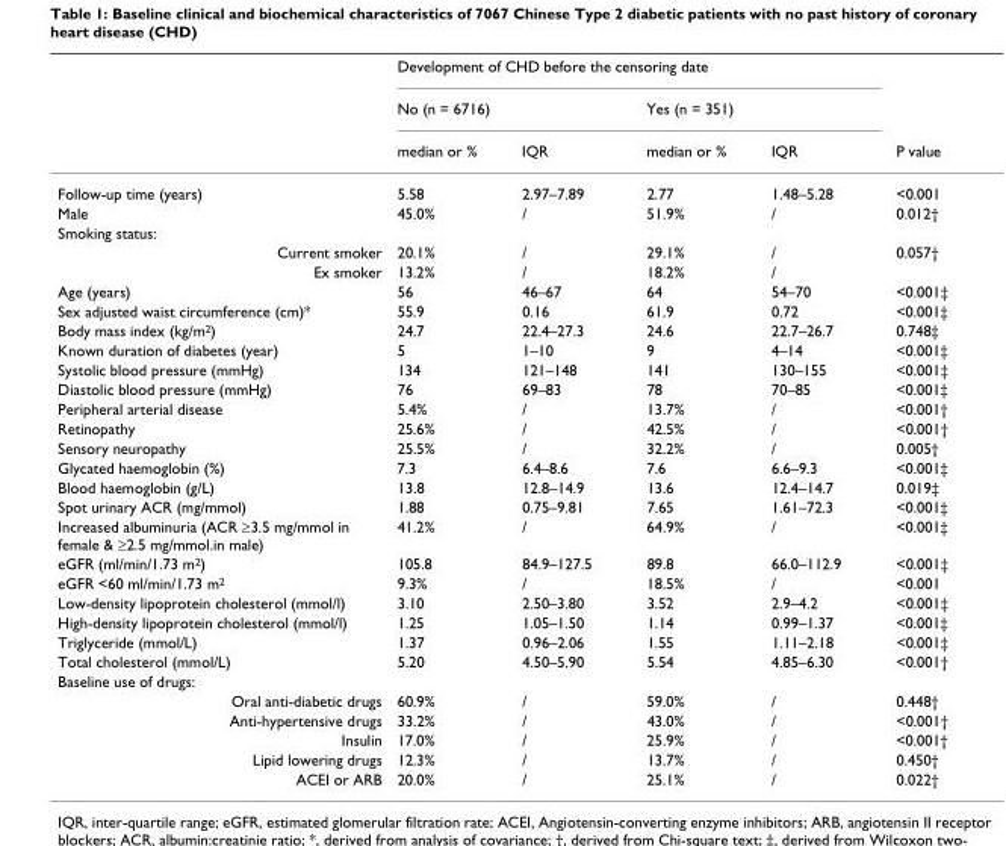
<table><thead><tr><td rowspan="3"></td><td colspan="4">Development of CHD before the censoring date</td><td rowspan="3">P value</td></tr><tr><td colspan="2">No (n = 6716)</td><td colspan="2">Yes (n = 351)</td></tr><tr><td>median or %</td><td>IQR</td><td>median or %</td><td>IQR</td></tr></thead><tbody><tr><td>Follow-up time (years)</td><td>5.58</td><td>2.97–7.89</td><td>2.77</td><td>1.48–5.28</td><td>&lt;0.001</td></tr><tr><td>Male</td><td>45.0%</td><td>/</td><td>51.9%</td><td>/</td><td>0.012†</td></tr><tr><td colspan="6">Smoking status:</td></tr><tr><td>Current smoker</td><td>20.1%</td><td>/</td><td>29.1%</td><td>/</td><td>0.057†</td></tr><tr><td>Ex smoker</td><td>13.2%</td><td>/</td><td>18.2%</td><td>/</td><td></td></tr><tr><td>Age (years)</td><td>56</td><td>46–67</td><td>64</td><td>54–70</td><td>&lt;0.001‡</td></tr><tr><td>Sex adjusted waist circumference (cm)*</td><td>55.9</td><td>0.16</td><td>61.9</td><td>0.72</td><td>&lt;0.001‡</td></tr><tr><td>Body mass index (kg/m<sup>2</sup>)</td><td>24.7</td><td>22.4–27.3</td><td>24.6</td><td>22.7–26.7</td><td>0.748‡</td></tr><tr><td>Known duration of diabetes (year)</td><td>5</td><td>1–10</td><td>9</td><td>4–14</td><td>&lt;0.001‡</td></tr><tr><td>Systolic blood pressure (mmHg)</td><td>134</td><td>121–148</td><td>141</td><td>130–155</td><td>&lt;0.001‡</td></tr><tr><td>Diastolic blood pressure (mmHg)</td><td>76</td><td>69–83</td><td>78</td><td>70–85</td><td>&lt;0.001‡</td></tr><tr><td>Peripheral arterial disease</td><td>5.4%</td><td>/</td><td>13.7%</td><td>/</td><td>&lt;0.001†</td></tr><tr><td>Retinopathy</td><td>25.6%</td><td>/</td><td>42.5%</td><td>/</td><td>&lt;0.001†</td></tr><tr><td>Sensory neuropathy</td><td>25.5%</td><td>/</td><td>32.2%</td><td>/</td><td>0.005†</td></tr><tr><td>Glycated haemoglobin (%)</td><td>7.3</td><td>6.4–8.6</td><td>7.6</td><td>6.6–9.3</td><td>&lt;0.001‡</td></tr><tr><td>Blood haemoglobin (g/L)</td><td>13.8</td><td>12.8–14.9</td><td>13.6</td><td>12.4–14.7</td><td>0.019‡</td></tr><tr><td>Spot urinary ACR (mg/mmol)</td><td>1.88</td><td>0.75–9.81</td><td>7.65</td><td>1.61–72.3</td><td>&lt;0.001‡</td></tr><tr><td>Increased albuminuria (ACR ≥3.5 mg/mmol in female &amp; ≥2.5 mg/mmol.in male)</td><td>41.2%</td><td>/</td><td>64.9%</td><td>/</td><td>&lt;0.001‡</td></tr><tr><td>eGFR (ml/min/1.73 m<sup>2</sup>)</td><td>105.8</td><td>84.9–127.5</td><td>89.8</td><td>66.0–112.9</td><td>&lt;0.001‡</td></tr><tr><td>eGFR &lt;60 ml/min/1.73 m<sup>2</sup></td><td>9.3%</td><td>/</td><td>18.5%</td><td>/</td><td>&lt;0.001</td></tr><tr><td>Low-density lipoprotein cholesterol (mmol/l)</td><td>3.10</td><td>2.50–3.80</td><td>3.52</td><td>2.9–4.2</td><td>&lt;0.001‡</td></tr><tr><td>High-density lipoprotein cholesterol (mmol/l)</td><td>1.25</td><td>1.05–1.50</td><td>1.14</td><td>0.99–1.37</td><td>&lt;0.001‡</td></tr><tr><td>Triglyceride (mmol/L)</td><td>1.37</td><td>0.96–2.06</td><td>1.55</td><td>1.11–2.18</td><td>&lt;0.001‡</td></tr><tr><td>Total cholesterol (mmol/L)</td><td>5.20</td><td>4.50–5.90</td><td>5.54</td><td>4.85–6.30</td><td>&lt;0.001†</td></tr><tr><td colspan="6">Baseline use of drugs:</td></tr><tr><td>Oral anti-diabetic drugs</td><td>60.9%</td><td>/</td><td>59.0%</td><td>/</td><td>0.448†</td></tr><tr><td>Anti-hypertensive drugs</td><td>33.2%</td><td>/</td><td>43.0%</td><td>/</td><td>&lt;0.001†</td></tr><tr><td>Insulin</td><td>17.0%</td><td>/</td><td>25.9%</td><td>/</td><td>&lt;0.001†</td></tr><tr><td>Lipid lowering drugs</td><td>12.3%</td><td>/</td><td>13.7%</td><td>/</td><td>0.450†</td></tr><tr><td>ACEI or ARB</td><td>20.0%</td><td>/</td><td>25.1%</td><td>/</td><td>0.022†</td></tr></tbody></table>